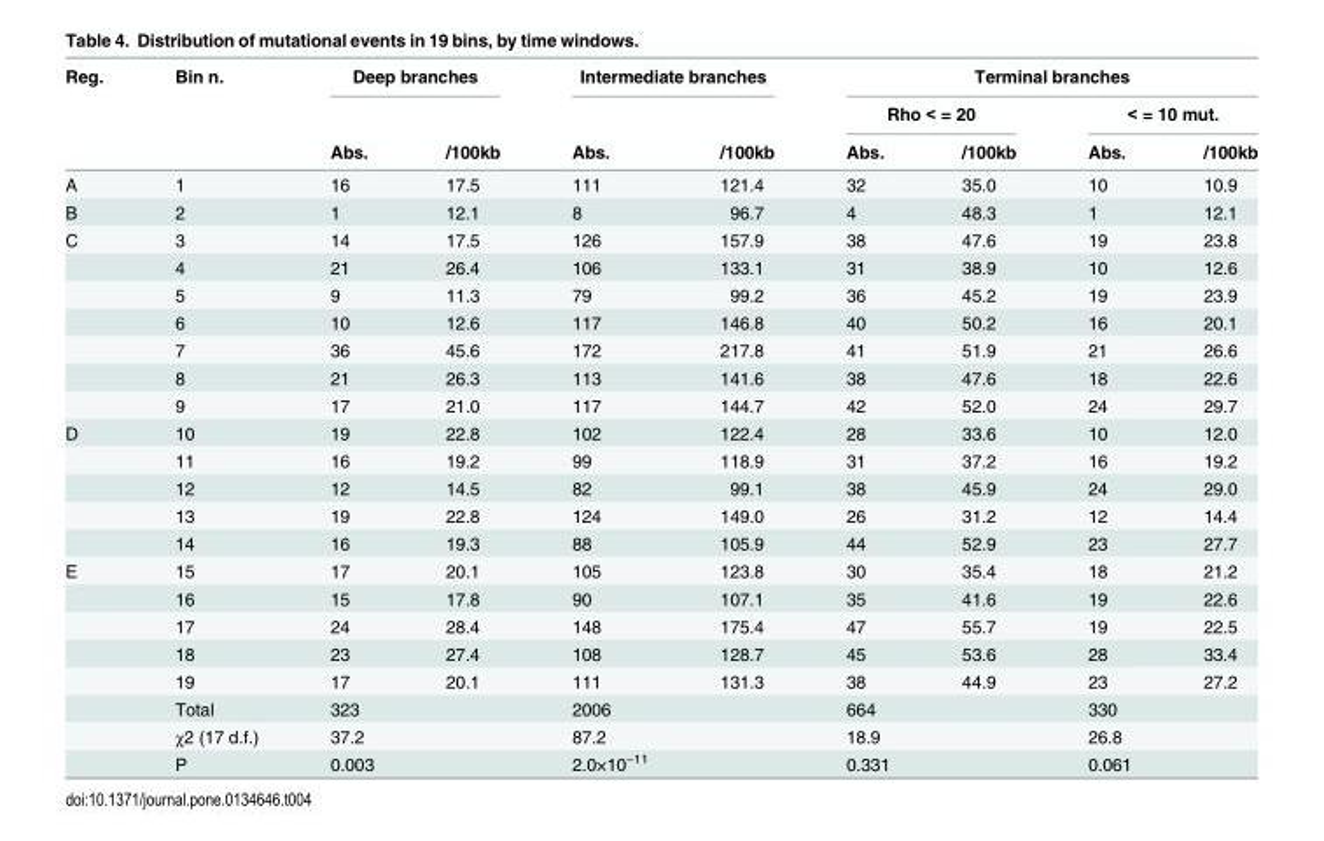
<table><thead><tr><td rowspan="3">Reg.</td><td rowspan="3">Bin n.</td><td colspan="2">Deep branches</td><td colspan="2">Intermediate branches</td><td colspan="4">Terminal branches</td></tr><tr><td rowspan="2">Abs.</td><td rowspan="2">/100kb</td><td rowspan="2">Abs.</td><td rowspan="2">/100kb</td><td colspan="2">Rho &lt; = 20</td><td colspan="2">&lt; = 10 mut.</td></tr><tr><td>Abs.</td><td>/100kb</td><td>Abs.</td><td>/100kb</td></tr></thead><tbody><tr><td>A</td><td>1</td><td>16</td><td>17.5</td><td>111</td><td>121.4</td><td>32</td><td>35.0</td><td>10</td><td>10.9</td></tr><tr><td>B</td><td>2</td><td>1</td><td>12.1</td><td>8</td><td>96.7</td><td>4</td><td>48.3</td><td>1</td><td>12.1</td></tr><tr><td rowspan="7">C</td><td>3</td><td>14</td><td>17.5</td><td>126</td><td>157.9</td><td>38</td><td>47.6</td><td>19</td><td>23.8</td></tr><tr><td>4</td><td>21</td><td>26.4</td><td>106</td><td>133.1</td><td>31</td><td>38.9</td><td>10</td><td>12.6</td></tr><tr><td>5</td><td>9</td><td>11.3</td><td>79</td><td>99.2</td><td>36</td><td>45.2</td><td>19</td><td>23.9</td></tr><tr><td>6</td><td>10</td><td>12.6</td><td>117</td><td>146.8</td><td>40</td><td>50.2</td><td>16</td><td>20.1</td></tr><tr><td>7</td><td>36</td><td>45.6</td><td>172</td><td>217.8</td><td>41</td><td>51.9</td><td>21</td><td>26.6</td></tr><tr><td>8</td><td>21</td><td>26.3</td><td>113</td><td>141.6</td><td>38</td><td>47.6</td><td>18</td><td>22.6</td></tr><tr><td>9</td><td>17</td><td>21.0</td><td>117</td><td>144.7</td><td>42</td><td>52.0</td><td>24</td><td>29.7</td></tr><tr><td rowspan="5">D</td><td>10</td><td>19</td><td>22.8</td><td>102</td><td>122.4</td><td>28</td><td>33.6</td><td>10</td><td>12.0</td></tr><tr><td>11</td><td>16</td><td>19.2</td><td>99</td><td>118.9</td><td>31</td><td>37.2</td><td>16</td><td>19.2</td></tr><tr><td>12</td><td>12</td><td>14.5</td><td>82</td><td>99.1</td><td>38</td><td>45.9</td><td>24</td><td>29.0</td></tr><tr><td>13</td><td>19</td><td>22.8</td><td>124</td><td>149.0</td><td>26</td><td>31.2</td><td>12</td><td>14.4</td></tr><tr><td>14</td><td>16</td><td>19.3</td><td>88</td><td>105.9</td><td>44</td><td>52.9</td><td>23</td><td>27.7</td></tr><tr><td rowspan="8">E</td><td>15</td><td>17</td><td>20.1</td><td>105</td><td>123.8</td><td>30</td><td>35.4</td><td>18</td><td>21.2</td></tr><tr><td>16</td><td>15</td><td>17.8</td><td>90</td><td>107.1</td><td>35</td><td>41.6</td><td>19</td><td>22.6</td></tr><tr><td>17</td><td>24</td><td>28.4</td><td>148</td><td>175.4</td><td>47</td><td>55.7</td><td>19</td><td>22.5</td></tr><tr><td>18</td><td>23</td><td>27.4</td><td>108</td><td>128.7</td><td>45</td><td>53.6</td><td>28</td><td>33.4</td></tr><tr><td>19</td><td>17</td><td>20.1</td><td>111</td><td>131.3</td><td>38</td><td>44.9</td><td>23</td><td>27.2</td></tr><tr><td>Total</td><td>323</td><td></td><td>2006</td><td></td><td>664</td><td></td><td>330</td><td></td></tr><tr><td>χ2 (17 d.f.)</td><td>37.2</td><td></td><td>87.2</td><td></td><td>18.9</td><td></td><td>26.8</td><td></td></tr><tr><td>P</td><td>0.003</td><td></td><td>2.0×10<sup>−11</sup></td><td></td><td>0.331</td><td></td><td>0.061</td><td></td></tr></tbody></table>